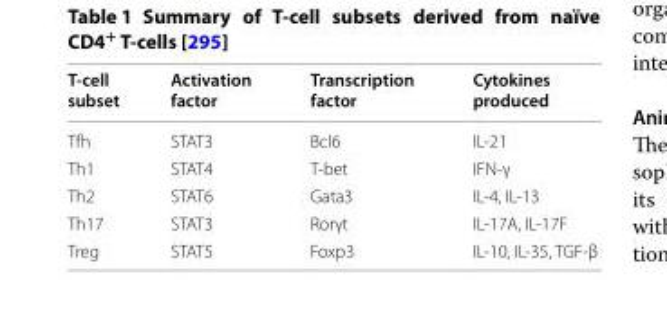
<table><thead><tr><td>T-cell subset</td><td>Activation factor</td><td>Transcription factor</td><td>Cytokines produced</td></tr></thead><tbody><tr><td>Tfh</td><td>STAT3</td><td>Bcl6</td><td>IL-21</td></tr><tr><td>Th1</td><td>STAT4</td><td>T-bet</td><td>IFN-γ</td></tr><tr><td>Th2</td><td>STAT6</td><td>Gata3</td><td>IL-4, IL-13</td></tr><tr><td>Th17</td><td>STAT3</td><td>Rorγt</td><td>IL-17A, IL-17F</td></tr><tr><td>Treg</td><td>STAT5</td><td>Foxp3</td><td>IL-10, IL-35, TGF-β</td></tr></tbody></table>